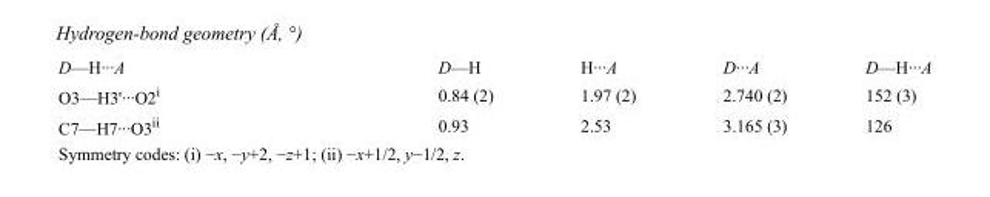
<table><tbody><tr><td>D—H···A</td><td>D—H</td><td>H···A</td><td>D···A</td><td>D—H···A</td></tr><tr><td>O3—H3&#x27;···O2<sup>i</sup></td><td>0.84 (2)</td><td>1.97 (2)</td><td>2.740 (2)</td><td>152 (3)</td></tr><tr><td>C7—H7···O3<sup>ii</sup></td><td>0.93</td><td>2.53</td><td>3.165 (3)</td><td>126</td></tr></tbody></table>